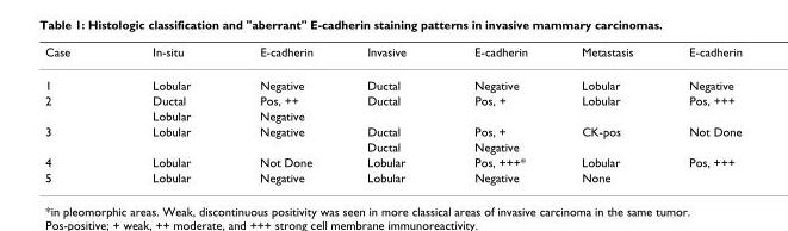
<table><thead><tr><td>Case</td><td>In-situ</td><td>E-cadherin</td><td>Invasive</td><td>E-cadherin</td><td>Metastasis</td><td>E-cadherin</td></tr></thead><tbody><tr><td>1</td><td>Lobular</td><td>Negative</td><td>Ductal</td><td>Negative</td><td>Lobular</td><td>Negative</td></tr><tr><td rowspan="2">2</td><td>Ductal</td><td>Pos, ++</td><td>Ductal</td><td>Pos, +</td><td>Lobular</td><td>Pos, +++</td></tr><tr><td>Lobular</td><td>Negative</td><td></td><td></td><td></td><td></td></tr><tr><td rowspan="2">3</td><td>Lobular</td><td>Negative</td><td>Ductal</td><td>Pos, +</td><td>CK-pos</td><td>Not Done</td></tr><tr><td></td><td></td><td>Ductal</td><td>Negative</td><td></td><td></td></tr><tr><td>4</td><td>Lobular</td><td>Not Done</td><td>Lobular</td><td>Pos, +++*</td><td>Lobular</td><td>Pos, +++</td></tr><tr><td>5</td><td>Lobular</td><td>Negative</td><td>Lobular</td><td>Negative</td><td>None</td><td></td></tr></tbody></table>